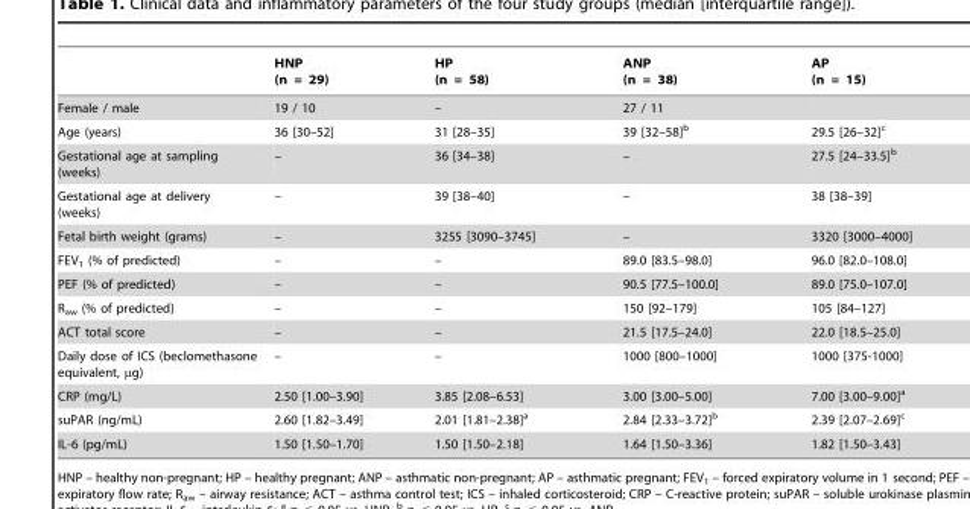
<table><thead><tr><td></td><td>HNP (n = 29)</td><td>HP (n = 58)</td><td>ANP (n = 38)</td><td>AP (n = 15)</td></tr></thead><tbody><tr><td>Female / male</td><td>19 / 10</td><td>–</td><td>27 / 11</td><td></td></tr><tr><td>Age (years)</td><td>36 [30–52]</td><td>31 [28–35]</td><td>39 [32–58]<sup>b</sup></td><td>29.5 [26–32]c</td></tr><tr><td>Gestational age at sampling (weeks)</td><td>–</td><td>36 [34–38]</td><td>–</td><td>27.5 [24–33.5]<sup>b</sup></td></tr><tr><td>Gestational age at delivery (weeks)</td><td>–</td><td>39 [38–40]</td><td>–</td><td>38 [38–39]</td></tr><tr><td>Fetal birth weight (grams)</td><td>–</td><td>3255 [3090–3745]</td><td>–</td><td>3320 [3000–4000]</td></tr><tr><td>FEV<sub>1</sub> (% of predicted)</td><td>–</td><td>–</td><td>89.0 [83.5–98.0]</td><td>96.0 [82.0–108.0]</td></tr><tr><td>PEF (% of predicted)</td><td>–</td><td>–</td><td>90.5 [77.5–100.0]</td><td>89.0 [75.0–107.0]</td></tr><tr><td>R<sub>aw</sub> (% of predicted)</td><td>–</td><td>–</td><td>150 [92–179]</td><td>105 [84–127]</td></tr><tr><td>ACT total score</td><td>–</td><td>–</td><td>21.5 [17.5–24.0]</td><td>22.0 [18.5–25.0]</td></tr><tr><td>Daily dose of ICS (beclomethasone equivalent, μg)</td><td>–</td><td>–</td><td>1000 [800–1000]</td><td>1000 [375-1000]</td></tr><tr><td>CRP (mg/L)</td><td>2.50 [1.00–3.90]</td><td>3.85 [2.08–6.53]</td><td>3.00 [3.00–5.00]</td><td>7.00 [3.00–9.00]<sup>a</sup></td></tr><tr><td>suPAR (ng/mL)</td><td>2.60 [1.82–3.49]</td><td>2.01 [1.81–2.38]<sup>a</sup></td><td>2.84 [2.33–3.72]<sup>b</sup></td><td>2.39 [2.07–2.69]<sup>c</sup></td></tr><tr><td>IL-6 (pg/mL)</td><td>1.50 [1.50–1.70]</td><td>1.50 [1.50–2.18]</td><td>1.64 [1.50–3.36]</td><td>1.82 [1.50–3.43]</td></tr></tbody></table>